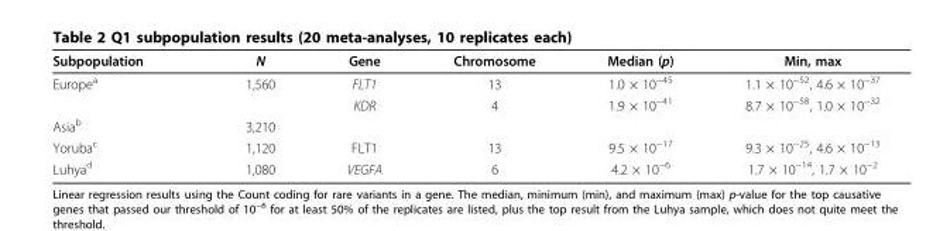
<table><thead><tr><td>Subpopulation</td><td>N</td><td>Gene</td><td>Chromosome</td><td>Median (p)</td><td>Min, max</td></tr></thead><tbody><tr><td rowspan="2">Europe<sup>a</sup></td><td>1,560</td><td>FLT1</td><td>13</td><td>1.0 × 10<sup>−45</sup></td><td>1.1 × 10<sup>−52</sup>, 4.6 × 10<sup>−37</sup></td></tr><tr><td></td><td>KDR</td><td>4</td><td>1.9 × 10<sup>−41</sup></td><td>8.7 × 10<sup>−58</sup>, 1.0 × 10<sup>−32</sup></td></tr><tr><td>Asia<sup>b</sup></td><td>3,210</td><td></td><td></td><td></td><td></td></tr><tr><td>Yoruba<sup>c</sup></td><td>1,120</td><td>FLT1</td><td>13</td><td>9.5 × 10<sup>−17</sup></td><td>9.3 × 10<sup>−25</sup>, 4.6 × 10<sup>−13</sup></td></tr><tr><td>Luhya<sup>d</sup></td><td>1,080</td><td>VEGFA</td><td>6</td><td>4.2 × 10<sup>−6</sup></td><td>1.7 × 10<sup>−14</sup>, 1.7 × 10<sup>−2</sup></td></tr></tbody></table>